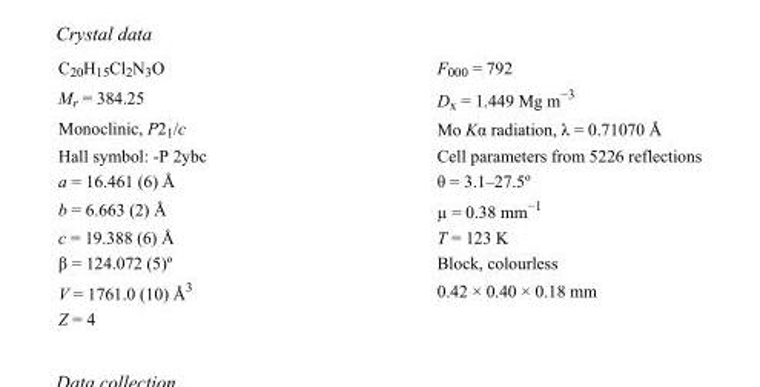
<table><tbody><tr><td>C<sub>20</sub>H<sub>15</sub>Cl<sub>2</sub>N<sub>3</sub>O</td><td>F000 = 792</td></tr><tr><td>M<sub>r</sub> = 384.25</td><td>D<sub>x</sub> = 1.449 Mg m<sup>−3</sup></td></tr><tr><td>Monoclinic, P2<sub>1</sub>/c</td><td>Mo Kα radiation, λ = 0.71070 Å</td></tr><tr><td>Hall symbol: -P 2ybc</td><td>Cell parameters from 5226 reflections</td></tr><tr><td>a = 16.461 (6) Å</td><td>θ = 3.1–27.5º</td></tr><tr><td>b = 6.663 (2) Å</td><td>µ = 0.38 mm<sup>−1</sup></td></tr><tr><td>c = 19.388 (6) Å</td><td>T = 123 K</td></tr><tr><td>β = 124.072 (5)º</td><td>Block, colourless</td></tr><tr><td>V = 1761.0 (10) Å<sup>3</sup></td><td>0.42 × 0.40 × 0.18 mm</td></tr><tr><td>Z = 4</td><td></td></tr></tbody></table>